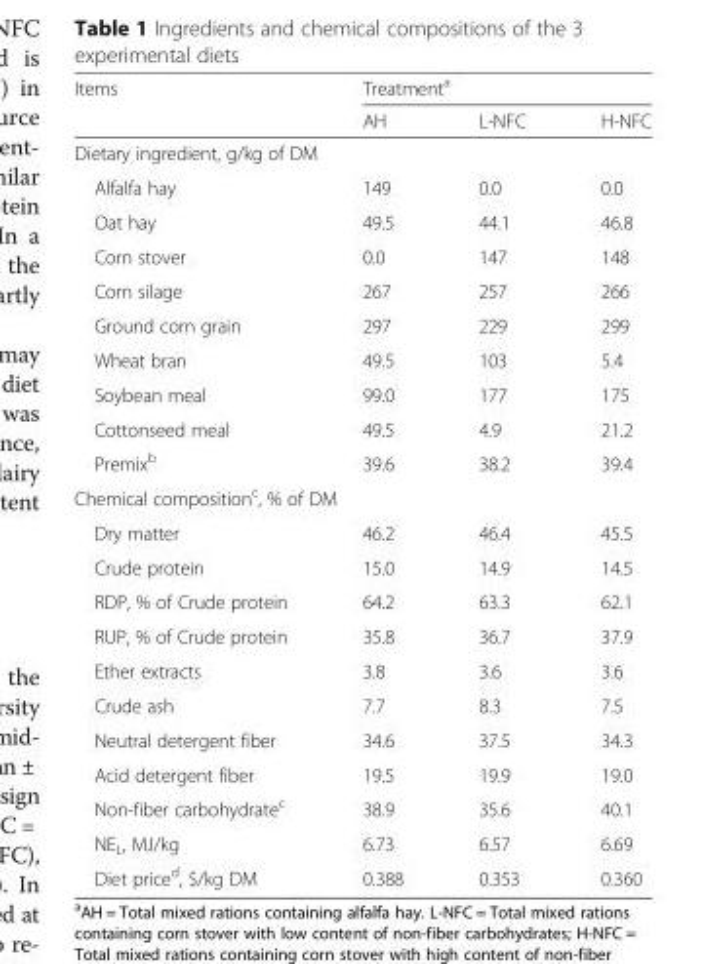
<table><thead><tr><td rowspan="2">Items</td><td colspan="3">Treatment<sup>a</sup></td></tr><tr><td>AH</td><td>L-NFC</td><td>H-NFC</td></tr></thead><tbody><tr><td colspan="4">Dietary ingredient, g/kg of DM</td></tr><tr><td>Alfalfa hay</td><td>149</td><td>0.0</td><td>0.0</td></tr><tr><td>Oat hay</td><td>49.5</td><td>44.1</td><td>46.8</td></tr><tr><td>Corn stover</td><td>0.0</td><td>147</td><td>148</td></tr><tr><td>Corn silage</td><td>267</td><td>257</td><td>266</td></tr><tr><td>Ground corn grain</td><td>297</td><td>229</td><td>299</td></tr><tr><td>Wheat bran</td><td>49.5</td><td>103</td><td>5.4</td></tr><tr><td>Soybean meal</td><td>99.0</td><td>177</td><td>175</td></tr><tr><td>Cottonseed meal</td><td>49.5</td><td>4.9</td><td>21.2</td></tr><tr><td>Premix<sup>b</sup></td><td>39.6</td><td>38.2</td><td>39.4</td></tr><tr><td colspan="4">Chemical composition<sup>c</sup>, % of DM</td></tr><tr><td>Dry matter</td><td>46.2</td><td>46.4</td><td>45.5</td></tr><tr><td>Crude protein</td><td>15.0</td><td>14.9</td><td>14.5</td></tr><tr><td>RDP, % of Crude protein</td><td>64.2</td><td>63.3</td><td>62.1</td></tr><tr><td>RUP, % of Crude protein</td><td>35.8</td><td>36.7</td><td>37.9</td></tr><tr><td>Ether extracts</td><td>3.8</td><td>3.6</td><td>3.6</td></tr><tr><td>Crude ash</td><td>7.7</td><td>8.3</td><td>7.5</td></tr><tr><td>Neutral detergent fiber</td><td>34.6</td><td>37.5</td><td>34.3</td></tr><tr><td>Acid detergent fiber</td><td>19.5</td><td>19.9</td><td>19.0</td></tr><tr><td>Non-fiber carbohydrate<sup>c</sup></td><td>38.9</td><td>35.6</td><td>40.1</td></tr><tr><td>NE<sub>L</sub>, MJ/kg</td><td>6.73</td><td>6.57</td><td>6.69</td></tr><tr><td>Diet price<sup>d</sup>, $/kg DM</td><td>0.388</td><td>0.353</td><td>0.360</td></tr></tbody></table>